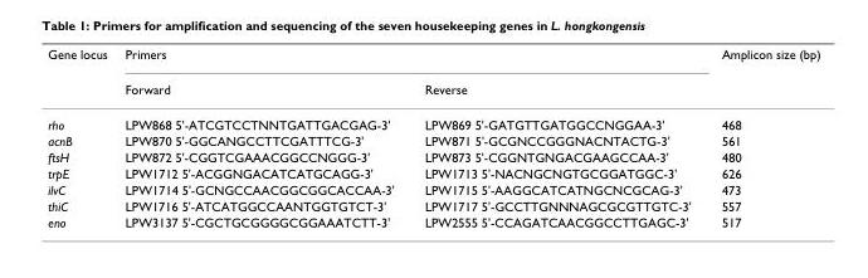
<table><thead><tr><td rowspan="2">Gene locus</td><td colspan="2">Primers</td><td rowspan="2">Amplicon size (bp)</td></tr><tr><td>Forward</td><td>Reverse</td></tr></thead><tbody><tr><td>rho</td><td>LPW868 5&#x27;-ATCGTCCTNNTGATTGACGAG-3&#x27;</td><td>LPW869 5&#x27;-GATGTTGATGGCCNGGAA-3&#x27;</td><td>468</td></tr><tr><td>acnB</td><td>LPW870 5&#x27;-GGCANGCCTTCGATTTCG-3&#x27;</td><td>LPW871 5&#x27;-GCGNCCGGGNACNTACTG-3&#x27;</td><td>561</td></tr><tr><td>ftsH</td><td>LPW872 5&#x27;-CGGTCGAAACGGCCNGGG-3&#x27;</td><td>LPW873 5&#x27;-CGGNTGNGACGAAGCCAA-3&#x27;</td><td>480</td></tr><tr><td>trpE</td><td>LPW1712 5&#x27;-ACGGNGACATCATGCAGG-3&#x27;</td><td>LPW1713 5&#x27;-NACNGCNGTGCGGATGGC-3&#x27;</td><td>626</td></tr><tr><td>ilvC</td><td>LPW1714 5&#x27;-GCNGCCAACGGCGGCACCAA-3&#x27;</td><td>LPW1715 5&#x27;-AAGGCATCATNGCNCGCAG-3&#x27;</td><td>473</td></tr><tr><td>thiC</td><td>LPW1716 5&#x27;-ATCATGGCCAANTGGTGTCT-3&#x27;</td><td>LPW1717 5&#x27;-GCCTTGNNNAGCGCGTTGTC-3&#x27;</td><td>557</td></tr><tr><td>eno</td><td>LPW3137 5&#x27;-CGCTGCGGGGCGGAAATCTT-3&#x27;</td><td>LPW2555 5&#x27;-CCAGATCAACGGCCTTGAGC-3&#x27;</td><td>517</td></tr></tbody></table>